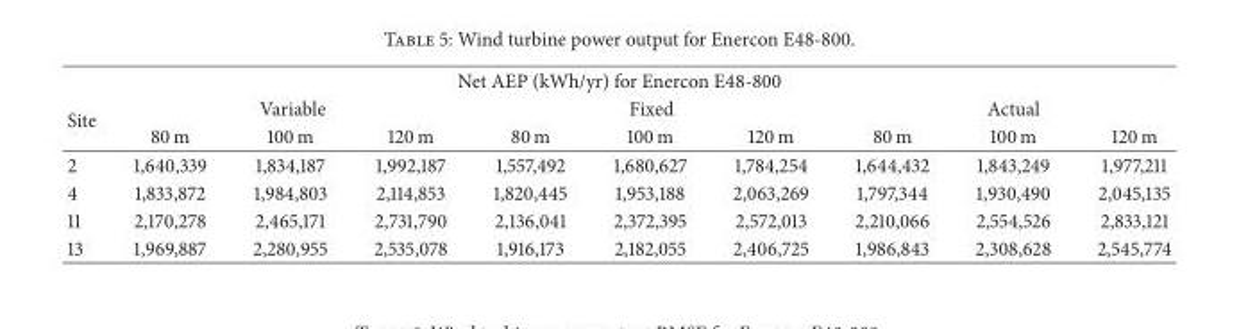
<table><thead><tr><td colspan="10">Net AEP (kWh/yr) for Enercon E48-800</td></tr><tr><td rowspan="2">Site</td><td colspan="3">Variable</td><td colspan="3">Fixed</td><td colspan="3">Actual</td></tr><tr><td>80 m</td><td>100 m</td><td>120 m</td><td>80 m</td><td>100 m</td><td>120 m</td><td>80 m</td><td>100 m</td><td>120 m</td></tr></thead><tbody><tr><td>2</td><td>1,640,339</td><td>1,834,187</td><td>1,992,187</td><td>1,557,492</td><td>1,680,627</td><td>1,784,254</td><td>1,644,432</td><td>1,843,249</td><td>1,977,211</td></tr><tr><td>4</td><td>1,833,872</td><td>1,984,803</td><td>2,114,853</td><td>1,820,445</td><td>1,953,188</td><td>2,063,269</td><td>1,797,344</td><td>1,930,490</td><td>2,045,135</td></tr><tr><td>11</td><td>2,170,278</td><td>2,465,171</td><td>2,731,790</td><td>2,136,041</td><td>2,372,395</td><td>2,572,013</td><td>2,210,066</td><td>2,554,526</td><td>2,833,121</td></tr><tr><td>13</td><td>1,969,887</td><td>2,280,955</td><td>2,535,078</td><td>1,916,173</td><td>2,182,055</td><td>2,406,725</td><td>1,986,843</td><td>2,308,628</td><td>2,545,774</td></tr></tbody></table>